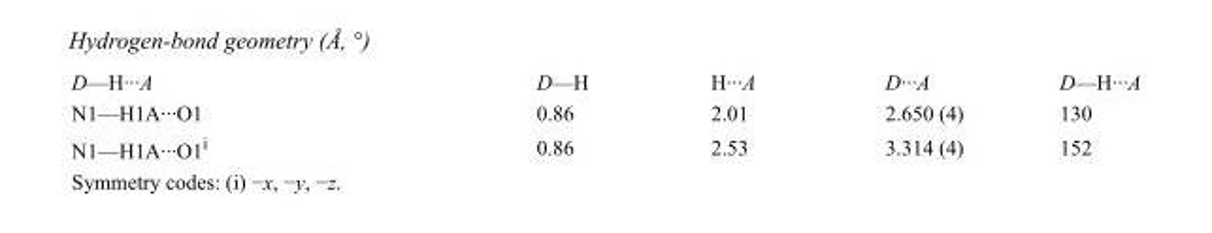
<table><tbody><tr><td>D—H···A</td><td>D—H</td><td>H···A</td><td>D···A</td><td>D—H···A</td></tr><tr><td>N1—H1A···O1</td><td>0.86</td><td>2.01</td><td>2.650 (4)</td><td>130</td></tr><tr><td>N1—H1A···O1<sup>i</sup></td><td>0.86</td><td>2.53</td><td>3.314 (4)</td><td>152</td></tr></tbody></table>